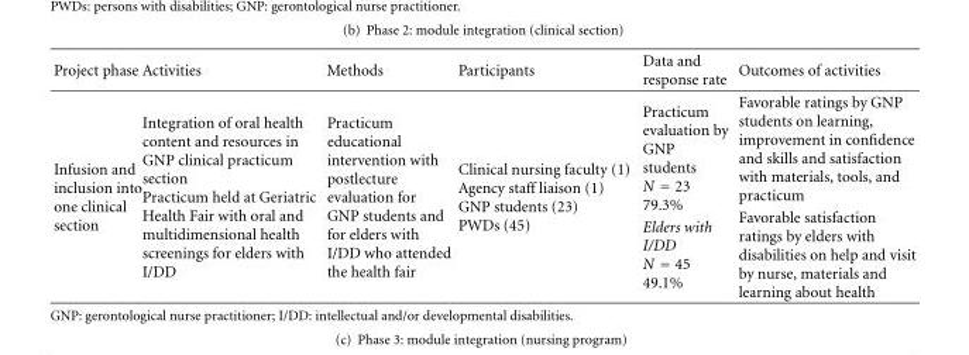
<table><thead><tr><td>Project phase</td><td>Activities</td><td>Methods</td><td>Participants</td><td>Data and response rate</td><td>Outcomes of activities</td></tr></thead><tbody><tr><td>Infusion and inclusion into one clinical section</td><td>Integration of oral health content and resources in GNP clinical practicum section Practicum held at Geriatric Health Fair with oral and multidimensional health screenings for elders with I/DD</td><td>Practicum educational intervention with postlecture evaluation for GNP students and for elders with I/DD who attended the health fair</td><td>Clinical nursing faculty (1) Agency staff liaison (1) GNP students (23) PWDs (45)</td><td>Practicum evaluation by GNP students N = 23 79.3% Elders with I/DD N = 45 49.1%</td><td>Favorable ratings by GNP students on learning, improvement in confidence and skills and satisfaction with materials, tools, and practicum Favorable satisfaction ratings by elders with disabilities on help and visit by nurse, materials and learning about health</td></tr></tbody></table>